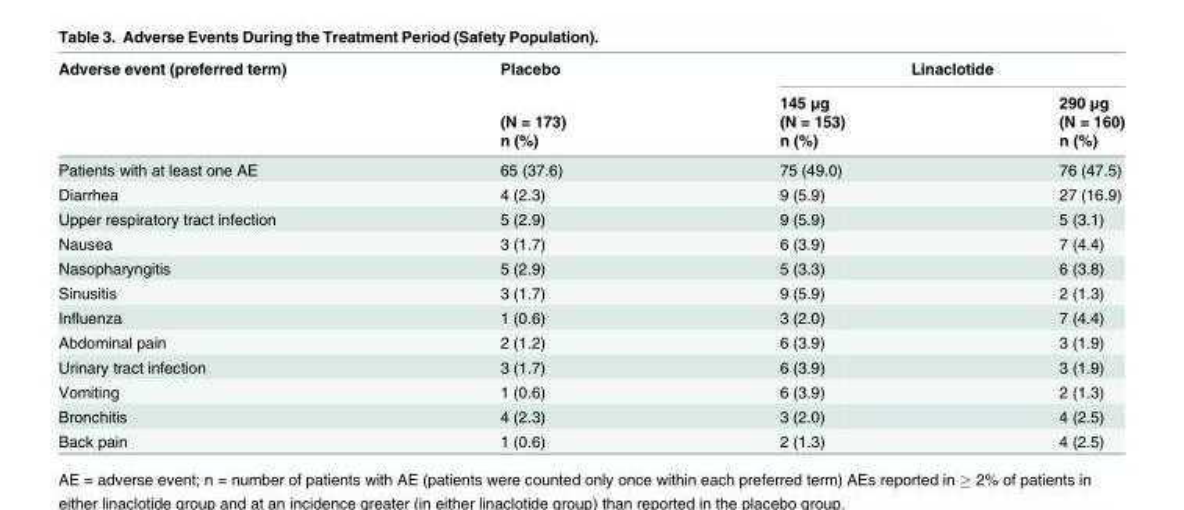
<table><thead><tr><td rowspan="4">Adverse event (preferred term)</td><td rowspan="4">Placebo (N = 173) n (%)</td><td colspan="2">Linaclotide</td></tr><tr><td rowspan="3">145 μg (N = 153) n (%)</td><td rowspan="3">290 μg (N = 160) n (%)</td></tr><tr></tr><tr></tr></thead><tbody><tr><td>Patients with at least one AE</td><td>65 (37.6)</td><td>75 (49.0)</td><td>76 (47.5)</td></tr><tr><td>Diarrhea</td><td>4 (2.3)</td><td>9 (5.9)</td><td>27 (16.9)</td></tr><tr><td>Upper respiratory tract infection</td><td>5 (2.9)</td><td>9 (5.9)</td><td>5 (3.1)</td></tr><tr><td>Nausea</td><td>3 (1.7)</td><td>6 (3.9)</td><td>7 (4.4)</td></tr><tr><td>Nasopharyngitis</td><td>5 (2.9)</td><td>5 (3.3)</td><td>6 (3.8)</td></tr><tr><td>Sinusitis</td><td>3 (1.7)</td><td>9 (5.9)</td><td>2 (1.3)</td></tr><tr><td>Influenza</td><td>1 (0.6)</td><td>3 (2.0)</td><td>7 (4.4)</td></tr><tr><td>Abdominal pain</td><td>2 (1.2)</td><td>6 (3.9)</td><td>3 (1.9)</td></tr><tr><td>Urinary tract infection</td><td>3 (1.7)</td><td>6 (3.9)</td><td>3 (1.9)</td></tr><tr><td>Vomiting</td><td>1 (0.6)</td><td>6 (3.9)</td><td>2 (1.3)</td></tr><tr><td>Bronchitis</td><td>4 (2.3)</td><td>3 (2.0)</td><td>4 (2.5)</td></tr><tr><td>Back pain</td><td>1 (0.6)</td><td>2 (1.3)</td><td>4 (2.5)</td></tr></tbody></table>